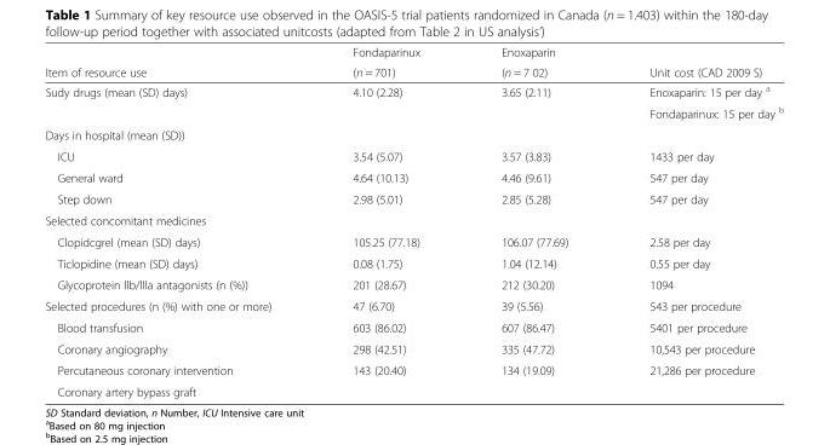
<table><thead><tr><td rowspan="2">Item of resource use</td><td rowspan="2">Fondaparinux (n = 701)</td><td rowspan="2">Enoxaparin (n = 7 02)</td><td rowspan="2">Unit cost (CAD 2009 S)</td></tr><tr></tr></thead><tbody><tr><td rowspan="2">Sudy drugs (mean (SD) days)</td><td rowspan="2">4.10 (2.28)</td><td rowspan="2">3.65 (2.11)</td><td>Enoxaparin: 15 per day <sup>a</sup></td></tr><tr><td>Fondaparinux: 15 per day <sup>b</sup></td></tr><tr><td colspan="4">Days in hospital (mean (SD))</td></tr><tr><td>ICU</td><td>3.54 (5.07)</td><td>3.57 (3.83)</td><td>1433 per day</td></tr><tr><td>General ward</td><td>4.64 (10.13)</td><td>4.46 (9.61)</td><td>547 per day</td></tr><tr><td>Step down</td><td>2.98 (5.01)</td><td>2.85 (5.28)</td><td>547 per day</td></tr><tr><td colspan="4">Selected concomitant medicines</td></tr><tr><td>Clopidcgrel (mean (SD) days)</td><td>105.25 (77.18)</td><td>106.07 (77.69)</td><td>2.58 per day</td></tr><tr><td>Ticlopidine (mean (SD) days)</td><td>0.08 (1.75)</td><td>1.04 (12.14)</td><td>0.55 per day</td></tr><tr><td>Glycoprotein llb/llla antagonists (n (%))</td><td>201 (28.67)</td><td>212 (30.20)</td><td>1094</td></tr><tr><td>Selected procedures (n (%) with one or more)</td><td>47 (6.70)</td><td>39 (5.56)</td><td>543 per procedure</td></tr><tr><td>Blood transfusion</td><td>603 (86.02)</td><td>607 (86.47)</td><td>5401 per procedure</td></tr><tr><td>Coronary angiography</td><td>298 (42.51)</td><td>335 (47.72)</td><td>10,543 per procedure</td></tr><tr><td>Percutaneous coronary intervention</td><td>143 (20.40)</td><td>134 (19.09)</td><td>21,286 per procedure</td></tr><tr><td>Coronary artery bypass graft</td><td></td><td></td><td></td></tr></tbody></table>